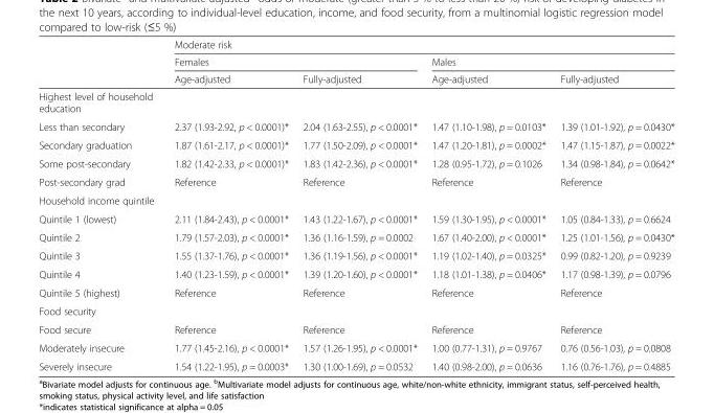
<table><thead><tr><td rowspan="3"></td><td colspan="4">Moderate risk</td></tr><tr><td colspan="2">Females</td><td colspan="2">Males</td></tr><tr><td>Age-adjusted</td><td>Fully-adjusted</td><td>Age-adjusted</td><td>Fully-adjusted</td></tr></thead><tbody><tr><td colspan="5">Highest level of household education</td></tr><tr><td>Less than secondary</td><td>2.37 (1.93-2.92, p &lt; 0.0001)*</td><td>2.04 (1.63-2.55), p &lt; 0.0001*</td><td>1.47 (1.10-1.98), p = 0.0103*</td><td>1.39 (1.01-1.92), p = 0.0430*</td></tr><tr><td>Secondary graduation</td><td>1.87 (1.61-2.17, p &lt; 0.0001)*</td><td>1.77 (1.50-2.09), p &lt; 0.0001*</td><td>1.47 (1.20-1.81), p = 0.0002*</td><td>1.47 (1.15-1.87), p = 0.0022*</td></tr><tr><td>Some post-secondary</td><td>1.82 (1.42-2.33, p &lt; 0.0001)*</td><td>1.83 (1.42-2.36), p &lt; 0.0001*</td><td>1.28 (0.95-1.72), p = 0.1026</td><td>1.34 (0.98-1.84), p = 0.0642*</td></tr><tr><td>Post-secondary grad</td><td>Reference</td><td>Reference</td><td>Reference</td><td>Reference</td></tr><tr><td colspan="5">Household income quintile</td></tr><tr><td>Quintile 1 (lowest)</td><td>2.11 (1.84-2.43), p &lt; 0.0001*</td><td>1.43 (1.22-1.67), p &lt; 0.0001*</td><td>1.59 (1.30-1.95), p &lt; 0.0001*</td><td>1.05 (0.84-1.33), p = 0.6624</td></tr><tr><td>Quintile 2</td><td>1.79 (1.57-2.03), p &lt; 0.0001*</td><td>1.36 (1.16-1.59), p = 0.0002</td><td>1.67 (1.40-2.00), p &lt; 0.0001*</td><td>1.25 (1.01-1.56), p = 0.0430*</td></tr><tr><td>Quintile 3</td><td>1.55 (1.37-1.76), p &lt; 0.0001*</td><td>1.36 (1.19-1.56), p &lt; 0.0001*</td><td>1.19 (1.02-1.40), p = 0.0325*</td><td>0.99 (0.82-1.20), p = 0.9239</td></tr><tr><td>Quintile 4</td><td>1.40 (1.23-1.59), p &lt; 0.0001*</td><td>1.39 (1.20-1.60), p &lt; 0.0001*</td><td>1.18 (1.01-1.38), p = 0.0406*</td><td>1.17 (0.98-1.39), p = 0.0796</td></tr><tr><td>Quintile 5 (highest)</td><td>Reference</td><td>Reference</td><td>Reference</td><td>Reference</td></tr><tr><td colspan="5">Food security</td></tr><tr><td>Food secure</td><td>Reference</td><td>Reference</td><td>Reference</td><td>Reference</td></tr><tr><td>Moderately insecure</td><td>1.77 (1.45-2.16), p &lt; 0.0001*</td><td>1.57 (1.26-1.95), p &lt; 0.0001*</td><td>1.00 (0.77-1.31), p = 0.9767</td><td>0.76 (0.56-1.03), p = 0.0808</td></tr><tr><td>Severely insecure</td><td>1.54 (1.22-1.95), p = 0.0003*</td><td>1.30 (1.00-1.69), p = 0.0532</td><td>1.40 (0.98-2.00), p = 0.0636</td><td>1.16 (0.76-1.76), p = 0.4885</td></tr></tbody></table>